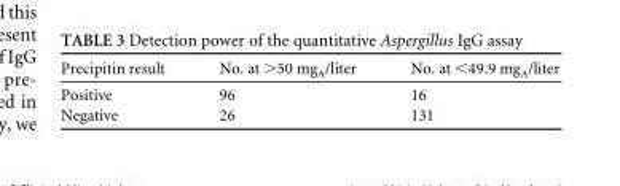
<table><thead><tr><td>Precipitin result</td><td>No. at &gt;50 mg<sub>A</sub>/liter</td><td>No. at &lt;49.9 mg<sub>A</sub>/liter</td></tr></thead><tbody><tr><td>Positive</td><td>96</td><td>16</td></tr><tr><td>Negative</td><td>26</td><td>131</td></tr></tbody></table>